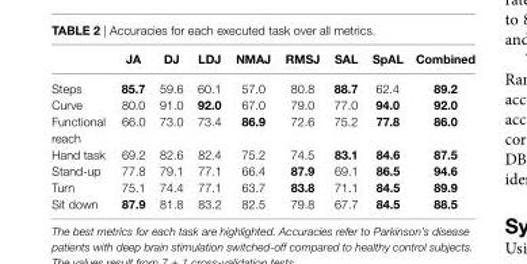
<table><thead><tr><td></td><td>Ja</td><td>DJ</td><td>lDJ</td><td>nMaJ</td><td>rMsJ</td><td>sal</td><td>spal</td><td>combined</td></tr></thead><tbody><tr><td>Steps</td><td>85.7</td><td>59.6</td><td>60.1</td><td>57.0</td><td>80.8</td><td>88.7</td><td>62.4</td><td>89.2</td></tr><tr><td>Curve</td><td>80.0</td><td>91.0</td><td>92.0</td><td>67.0</td><td>79.0</td><td>77.0</td><td>94.0</td><td>92.0</td></tr><tr><td>Functional reach</td><td>66.0</td><td>73.0</td><td>73.4</td><td>86.9</td><td>72.6</td><td>75.2</td><td>77.8</td><td>86.0</td></tr><tr><td>Hand task</td><td>69.2</td><td>82.6</td><td>82.4</td><td>75.2</td><td>74.5</td><td>83.1</td><td>84.6</td><td>87.5</td></tr><tr><td>Stand-up</td><td>77.8</td><td>79.1</td><td>77.1</td><td>66.4</td><td>87.9</td><td>69.1</td><td>86.5</td><td>94.6</td></tr><tr><td>Turn</td><td>75.1</td><td>74.4</td><td>77.1</td><td>63.7</td><td>83.8</td><td>71.1</td><td>84.5</td><td>89.9</td></tr><tr><td>Sit down</td><td>87.9</td><td>81.8</td><td>83.2</td><td>82.5</td><td>79.8</td><td>67.7</td><td>84.5</td><td>88.5</td></tr></tbody></table>